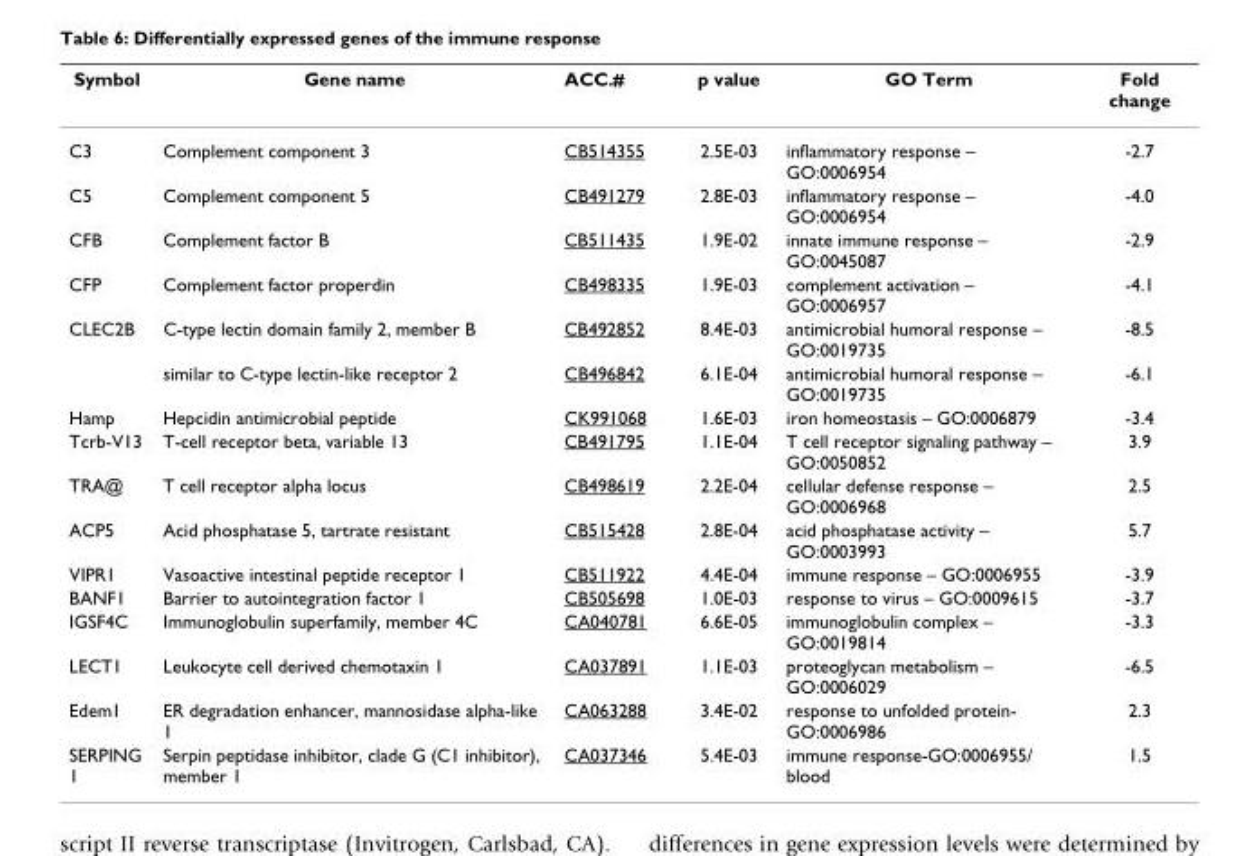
<table><thead><tr><td>Symbol</td><td>Gene name</td><td>ACC.#</td><td>p value</td><td>GO Term</td><td>Fold change</td></tr></thead><tbody><tr><td>C3</td><td>Complement component 3</td><td>CB514355</td><td>2.5E-03</td><td>inflammatory response – GO:0006954</td><td>-2.7</td></tr><tr><td>C5</td><td>Complement component 5</td><td>CB491279</td><td>2.8E-03</td><td>inflammatory response – GO:0006954</td><td>-4.0</td></tr><tr><td>CFB</td><td>Complement factor B</td><td>CB511435</td><td>1.9E-02</td><td>innate immune response – GO:0045087</td><td>-2.9</td></tr><tr><td>CFP</td><td>Complement factor properdin</td><td>CB498335</td><td>1.9E-03</td><td>complement activation – GO:0006957</td><td>-4.1</td></tr><tr><td rowspan="2">CLEC2B</td><td>C-type lectin domain family 2, member B</td><td>CB492852</td><td>8.4E-03</td><td>antimicrobial humoral response – GO:0019735</td><td>-8.5</td></tr><tr><td>similar to C-type lectin-like receptor 2</td><td>CB496842</td><td>6.1E-04</td><td>antimicrobial humoral response – GO:0019735</td><td>-6.1</td></tr><tr><td>Hamp</td><td>Hepcidin antimicrobial peptide</td><td>CK991068</td><td>1.6E-03</td><td>iron homeostasis – GO:0006879</td><td>-3.4</td></tr><tr><td>Tcrb-V13</td><td>T-cell receptor beta, variable 13</td><td>CB491795</td><td>1.1E-04</td><td>T cell receptor signaling pathway – GO:0050852</td><td>3.9</td></tr><tr><td>TRA@</td><td>T cell receptor alpha locus</td><td>CB498619</td><td>2.2E-04</td><td>cellular defense response – GO:0006968</td><td>2.5</td></tr><tr><td>ACP5</td><td>Acid phosphatase 5, tartrate resistant</td><td>CB515428</td><td>2.8E-04</td><td>acid phosphatase activity – GO:0003993</td><td>5.7</td></tr><tr><td>VIPR1</td><td>Vasoactive intestinal peptide receptor 1</td><td>CB511922</td><td>4.4E-04</td><td>immune response – GO:0006955</td><td>-3.9</td></tr><tr><td>BANF1</td><td>Barrier to autointegration factor 1</td><td>CB505698</td><td>1.0E-03</td><td>response to virus – GO:0009615</td><td>-3.7</td></tr><tr><td>IGSF4C</td><td>Immunoglobulin superfamily, member 4C</td><td>CA040781</td><td>6.6E-05</td><td>immunoglobulin complex – GO:0019814</td><td>-3.3</td></tr><tr><td>LECT1</td><td>Leukocyte cell derived chemotaxin 1</td><td>CA037891</td><td>1.1E-03</td><td>proteoglycan metabolism – GO:0006029</td><td>-6.5</td></tr><tr><td>Edem1</td><td>ER degradation enhancer, mannosidase alpha-like 1</td><td>CA063288</td><td>3.4E-02</td><td>response to unfolded protein- GO:0006986</td><td>2.3</td></tr><tr><td>SERPING 1</td><td>Serpin peptidase inhibitor, clade G (C1 inhibitor), member 1</td><td>CA037346</td><td>5.4E-03</td><td>immune response-GO:0006955/ blood</td><td>1.5</td></tr></tbody></table>